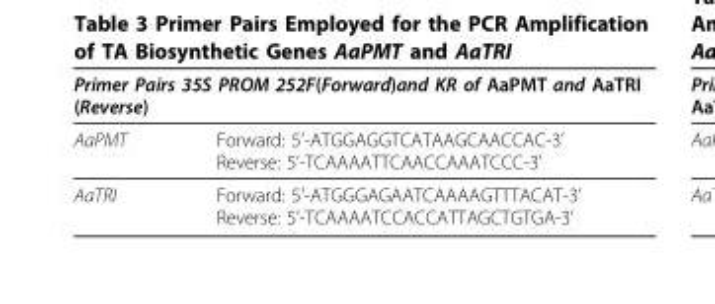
<table><thead><tr><td colspan="2">Primer Pairs 35S PROM 252F(Forward)and KR of AaPMT and AaTRI (Reverse)</td></tr><tr><td>AaPMT</td><td>Forward: 5’-ATGGAGGTCATAAGCAACCAC-3’ Reverse: 5’-TCAAAATTCAACCAAATCCC-3’</td></tr></thead><tbody><tr><td>AaTRI</td><td>Forward: 5’-ATGGGAGAATCAAAAGTTTACAT-3’ Reverse: 5’-TCAAAATCCACCATTAGCTGTGA-3’</td></tr></tbody></table>